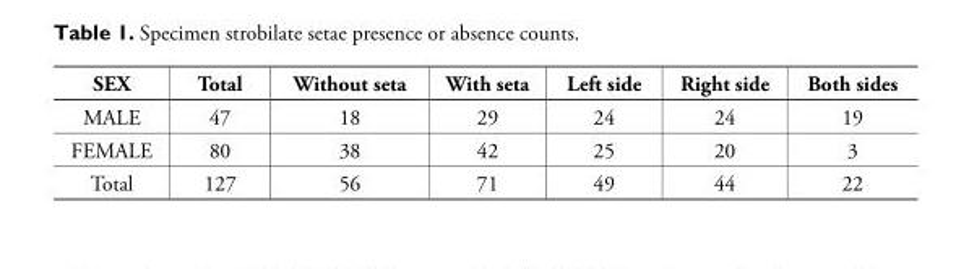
<table><thead><tr><td>SEX</td><td>Total</td><td>Without seta</td><td>With seta</td><td>Left side</td><td>Right side</td><td>Both sides</td></tr></thead><tbody><tr><td>MALE</td><td>47</td><td>18</td><td>29</td><td>24</td><td>24</td><td>19</td></tr><tr><td>FEMALE</td><td>80</td><td>38</td><td>42</td><td>25</td><td>20</td><td>3</td></tr><tr><td>Total</td><td>127</td><td>56</td><td>71</td><td>49</td><td>44</td><td>22</td></tr></tbody></table>